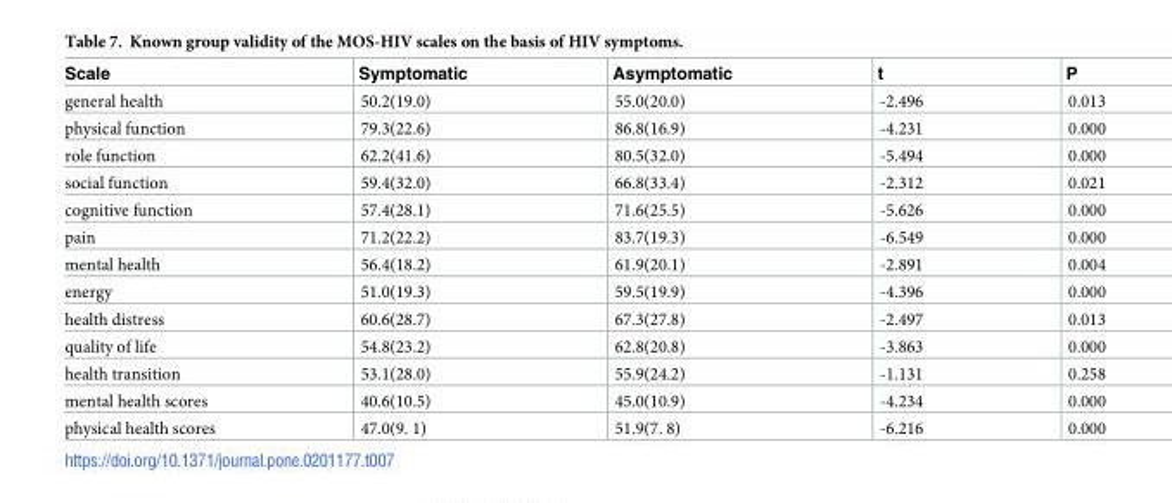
<table><thead><tr><td>Scale</td><td>Symptomatic</td><td>Asymptomatic</td><td>t</td><td>P</td></tr></thead><tbody><tr><td>general health</td><td>50.2(19.0)</td><td>55.0(20.0)</td><td>-2.496</td><td>0.013</td></tr><tr><td>physical function</td><td>79.3(22.6)</td><td>86.8(16.9)</td><td>-4.231</td><td>0.000</td></tr><tr><td>role function</td><td>62.2(41.6)</td><td>80.5(32.0)</td><td>-5.494</td><td>0.000</td></tr><tr><td>social function</td><td>59.4(32.0)</td><td>66.8(33.4)</td><td>-2.312</td><td>0.021</td></tr><tr><td>cognitive function</td><td>57.4(28.1)</td><td>71.6(25.5)</td><td>-5.626</td><td>0.000</td></tr><tr><td>pain</td><td>71.2(22.2)</td><td>83.7(19.3)</td><td>-6.549</td><td>0.000</td></tr><tr><td>mental health</td><td>56.4(18.2)</td><td>61.9(20.1)</td><td>-2.891</td><td>0.004</td></tr><tr><td>energy</td><td>51.0(19.3)</td><td>59.5(19.9)</td><td>-4.396</td><td>0.000</td></tr><tr><td>health distress</td><td>60.6(28.7)</td><td>67.3(27.8)</td><td>-2.497</td><td>0.013</td></tr><tr><td>quality of life</td><td>54.8(23.2)</td><td>62.8(20.8)</td><td>-3.863</td><td>0.000</td></tr><tr><td>health transition</td><td>53.1(28.0)</td><td>55.9(24.2)</td><td>-1.131</td><td>0.258</td></tr><tr><td>mental health scores</td><td>40.6(10.5)</td><td>45.0(10.9)</td><td>-4.234</td><td>0.000</td></tr><tr><td>physical health scores</td><td>47.0(9. 1)</td><td>51.9(7. 8)</td><td>-6.216</td><td>0.000</td></tr></tbody></table>